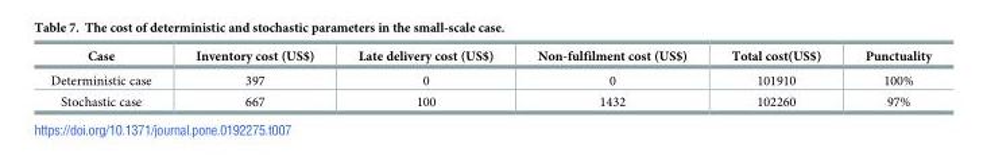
<table><thead><tr><td>Case</td><td>Inventory cost (US$)</td><td>Late delivery cost (US$)</td><td>Non-fulfilment cost (US$)</td><td>Total cost(US$)</td><td>Punctuality</td></tr></thead><tbody><tr><td>Deterministic case</td><td>397</td><td>0</td><td>0</td><td>101910</td><td>100%</td></tr><tr><td>Stochastic case</td><td>667</td><td>100</td><td>1432</td><td>102260</td><td>97%</td></tr></tbody></table>